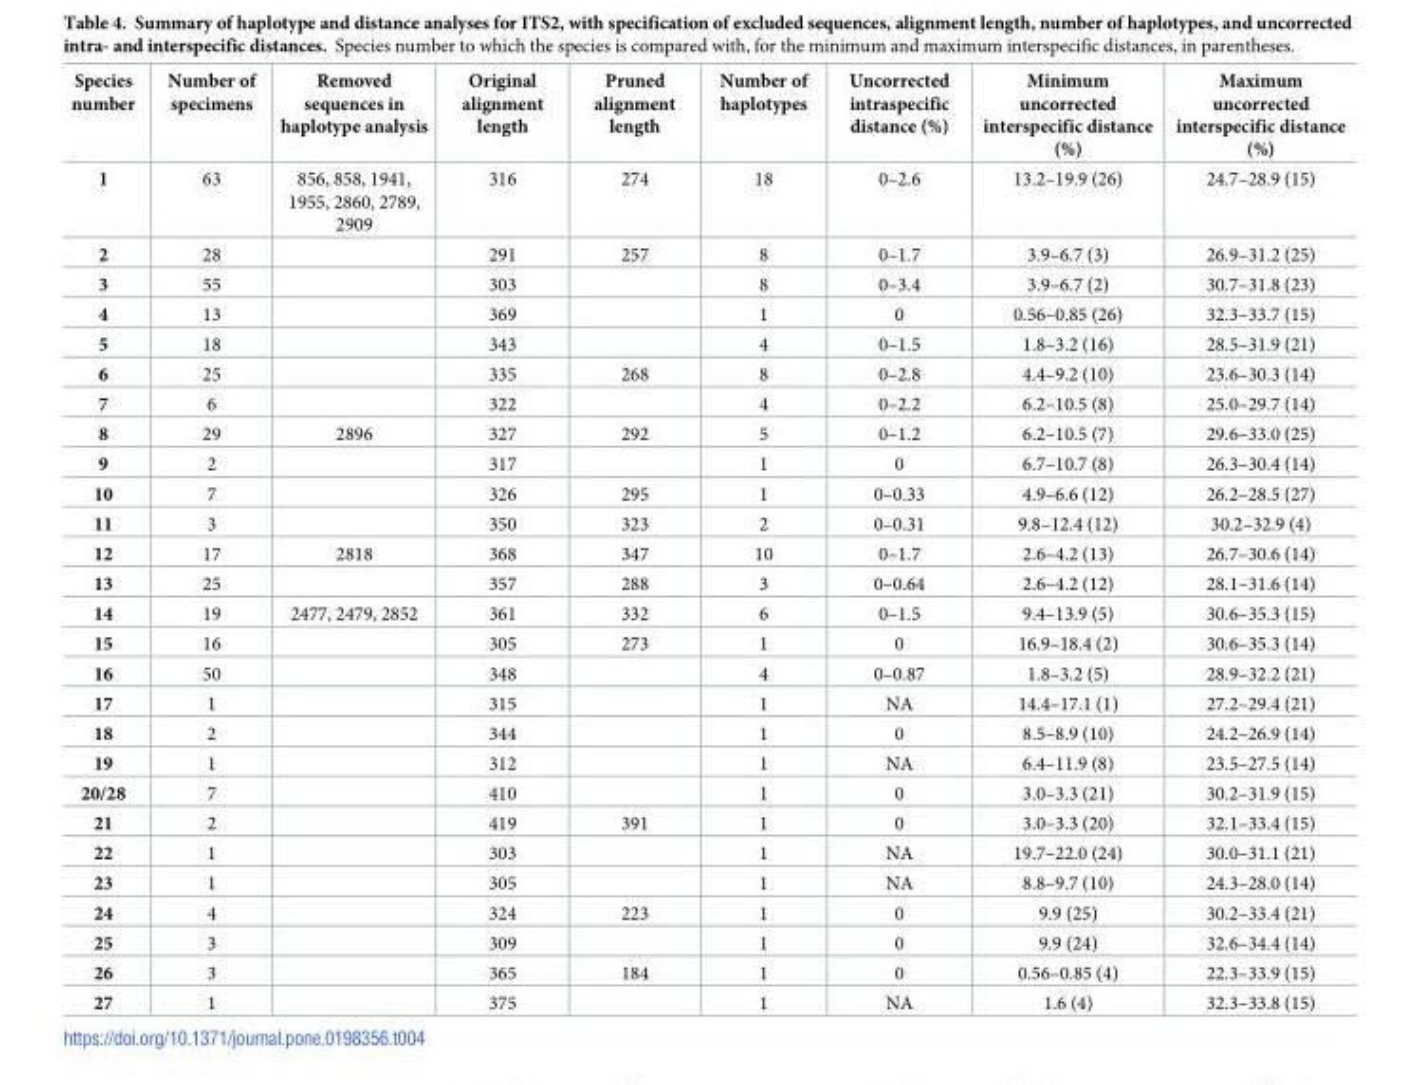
<table><thead><tr><td>Species number</td><td>Number of specimens</td><td>Removed sequences in haplotype analysis</td><td>Original alignment length</td><td>Pruned alignment length</td><td>Number of haplotypes</td><td>Uncorrected intraspecific distance (%)</td><td>Minimum uncorrected interspecific distance (%)</td><td>Maximum uncorrected interspecific distance (%)</td></tr></thead><tbody><tr><td>1</td><td>63</td><td>856, 858, 1941, 1955, 2860, 2789, 2909</td><td>316</td><td>274</td><td>18</td><td>0–2.6</td><td>13.2–19.9 (26)</td><td>24.7–28.9 (15)</td></tr><tr><td>2</td><td>28</td><td></td><td>291</td><td>257</td><td>8</td><td>0–1.7</td><td>3.9–6.7 (3)</td><td>26.9–31.2 (25)</td></tr><tr><td>3</td><td>55</td><td></td><td>303</td><td></td><td>8</td><td>0–3.4</td><td>3.9–6.7 (2)</td><td>30.7–31.8 (23)</td></tr><tr><td>4</td><td>13</td><td></td><td>369</td><td></td><td>1</td><td>0</td><td>0.56–0.85 (26)</td><td>32.3–33.7 (15)</td></tr><tr><td>5</td><td>18</td><td></td><td>343</td><td></td><td>4</td><td>0–1.5</td><td>1.8–3.2 (16)</td><td>28.5–31.9 (21)</td></tr><tr><td>6</td><td>25</td><td></td><td>335</td><td>268</td><td>8</td><td>0–2.8</td><td>4.4–9.2 (10)</td><td>23.6–30.3 (14)</td></tr><tr><td>7</td><td>6</td><td></td><td>322</td><td></td><td>4</td><td>0–2.2</td><td>6.2–10.5 (8)</td><td>25.0–29.7 (14)</td></tr><tr><td>8</td><td>29</td><td>2896</td><td>327</td><td>292</td><td>5</td><td>0–1.2</td><td>6.2–10.5 (7)</td><td>29.6–33.0 (25)</td></tr><tr><td>9</td><td>2</td><td></td><td>317</td><td></td><td>1</td><td>0</td><td>6.7–10.7 (8)</td><td>26.3–30.4 (14)</td></tr><tr><td>10</td><td>7</td><td></td><td>326</td><td>295</td><td>1</td><td>0–0.33</td><td>4.9–6.6 (12)</td><td>26.2–28.5 (27)</td></tr><tr><td>11</td><td>3</td><td></td><td>350</td><td>323</td><td>2</td><td>0–0.31</td><td>9.8–12.4 (12)</td><td>30.2–32.9 (4)</td></tr><tr><td>12</td><td>17</td><td>2818</td><td>368</td><td>347</td><td>10</td><td>0–1.7</td><td>2.6–4.2 (13)</td><td>26.7–30.6 (14)</td></tr><tr><td>13</td><td>25</td><td></td><td>357</td><td>288</td><td>3</td><td>0–0.64</td><td>2.6–4.2 (12)</td><td>28.1–31.6 (14)</td></tr><tr><td>14</td><td>19</td><td>2477, 2479, 2852</td><td>361</td><td>332</td><td>6</td><td>0–1.5</td><td>9.4–13.9 (5)</td><td>30.6–35.3 (15)</td></tr><tr><td>15</td><td>16</td><td></td><td>305</td><td>273</td><td>1</td><td>0</td><td>16.9–18.4 (2)</td><td>30.6–35.3 (14)</td></tr><tr><td>16</td><td>50</td><td></td><td>348</td><td></td><td>4</td><td>0–0.87</td><td>1.8–3.2 (5)</td><td>28.9–32.2 (21)</td></tr><tr><td>17</td><td>1</td><td></td><td>315</td><td></td><td>1</td><td>NA</td><td>14.4–17.1 (1)</td><td>27.2–29.4 (21)</td></tr><tr><td>18</td><td>2</td><td></td><td>344</td><td></td><td>1</td><td>0</td><td>8.5–8.9 (10)</td><td>24.2–26.9 (14)</td></tr><tr><td>19</td><td>1</td><td></td><td>312</td><td></td><td>1</td><td>NA</td><td>6.4–11.9 (8)</td><td>23.5–27.5 (14)</td></tr><tr><td>20/28</td><td>7</td><td></td><td>410</td><td></td><td>1</td><td>0</td><td>3.0–3.3 (21)</td><td>30.2–31.9 (15)</td></tr><tr><td>21</td><td>2</td><td></td><td>419</td><td>391</td><td>1</td><td>0</td><td>3.0–3.3 (20)</td><td>32.1–33.4 (15)</td></tr><tr><td>22</td><td>1</td><td></td><td>303</td><td></td><td>1</td><td>NA</td><td>19.7–22.0 (24)</td><td>30.0–31.1 (21)</td></tr><tr><td>23</td><td>1</td><td></td><td>305</td><td></td><td>1</td><td>NA</td><td>8.8–9.7 (10)</td><td>24.3–28.0 (14)</td></tr><tr><td>24</td><td>4</td><td></td><td>324</td><td>223</td><td>1</td><td>0</td><td>9.9 (25)</td><td>30.2–33.4 (21)</td></tr><tr><td>25</td><td>3</td><td></td><td>309</td><td></td><td>1</td><td>0</td><td>9.9 (24)</td><td>32.6–34.4 (14)</td></tr><tr><td>26</td><td>3</td><td></td><td>365</td><td>184</td><td>1</td><td>0</td><td>0.56–0.85 (4)</td><td>22.3–33.9 (15)</td></tr><tr><td>27</td><td>1</td><td></td><td>375</td><td></td><td>1</td><td>NA</td><td>1.6 (4)</td><td>32.3–33.8 (15)</td></tr></tbody></table>